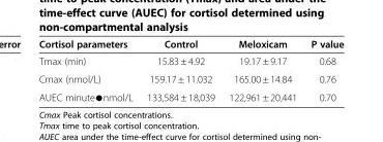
<table><thead><tr><td>Cortisol parameters</td><td>Control</td><td>Meloxicam</td><td>P value</td></tr></thead><tbody><tr><td>Tmax (min)</td><td>15.83 ± 4.92</td><td>19.17 ± 9.17</td><td>0.68</td></tr><tr><td>Cmax (nmol/L)</td><td>159.17 ± 11.032</td><td>165.00 ± 14.84</td><td>0.76</td></tr><tr><td>AUEC minute●nmol/L</td><td>133,584 ± 18,039</td><td>122,961 ± 20,441</td><td>0.70</td></tr></tbody></table>